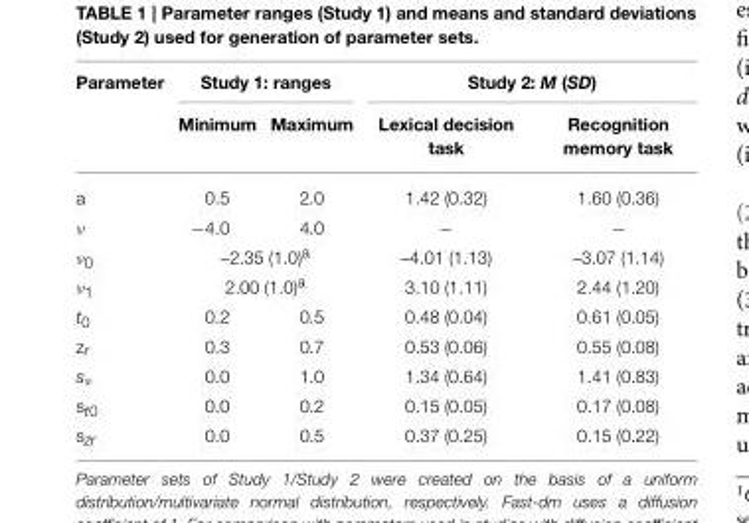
<table><thead><tr><td rowspan="2">Parameter</td><td colspan="2">Study 1: ranges</td><td colspan="2">Study 2: M (SD)</td></tr><tr><td>Minimum</td><td>Maximum</td><td>Lexical decision task</td><td>Recognition memory task</td></tr></thead><tbody><tr><td>a</td><td>0.5</td><td>2.0</td><td>1.42 (0.32)</td><td>1.60 (0.36)</td></tr><tr><td>ν</td><td>−4.0</td><td>4.0</td><td>−</td><td>−</td></tr><tr><td>ν<sub>0</sub></td><td colspan="2">–2.35 (1.0)<sup>a</sup></td><td>–4.01 (1.13)</td><td>–3.07 (1.14)</td></tr><tr><td>ν<sub>1</sub></td><td colspan="2">2.00 (1.0)<sup>a</sup></td><td>3.10 (1.11)</td><td>2.44 (1.20)</td></tr><tr><td>t<sub>0</sub></td><td>0.2</td><td>0.5</td><td>0.48 (0.04)</td><td>0.61 (0.05)</td></tr><tr><td>z<sub>r</sub></td><td>0.3</td><td>0.7</td><td>0.53 (0.06)</td><td>0.55 (0.08)</td></tr><tr><td><sub>sν</sub></td><td>0.0</td><td>1.0</td><td>1.34 (0.64)</td><td>1.41 (0.83)</td></tr><tr><td>s<sub>t0</sub></td><td>0.0</td><td>0.2</td><td>0.15 (0.05)</td><td>0.17 (0.08)</td></tr><tr><td>s<sub>zr</sub></td><td>0.0</td><td>0.5</td><td>0.37 (0.25)</td><td>0.15 (0.22)</td></tr></tbody></table>